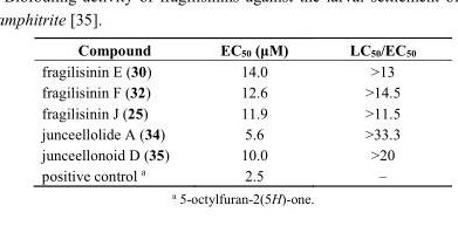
<table><thead><tr><td>Compound</td><td>EC<sub>50</sub> (μM)</td><td>LC<sub>50</sub>/EC<sub>50</sub></td></tr></thead><tbody><tr><td>fragilisinin E (30)</td><td>14.0</td><td>&gt;13</td></tr><tr><td>fragilisinin F (32)</td><td>12.6</td><td>&gt;14.5</td></tr><tr><td>fragilisinin J (25)</td><td>11.9</td><td>&gt;11.5</td></tr><tr><td>junceellolide A (34)</td><td>5.6</td><td>&gt;33.3</td></tr><tr><td>junceellonoid D (35)</td><td>10.0</td><td>&gt;20</td></tr><tr><td>positive control <sup>a</sup></td><td>2.5</td><td>–</td></tr></tbody></table>